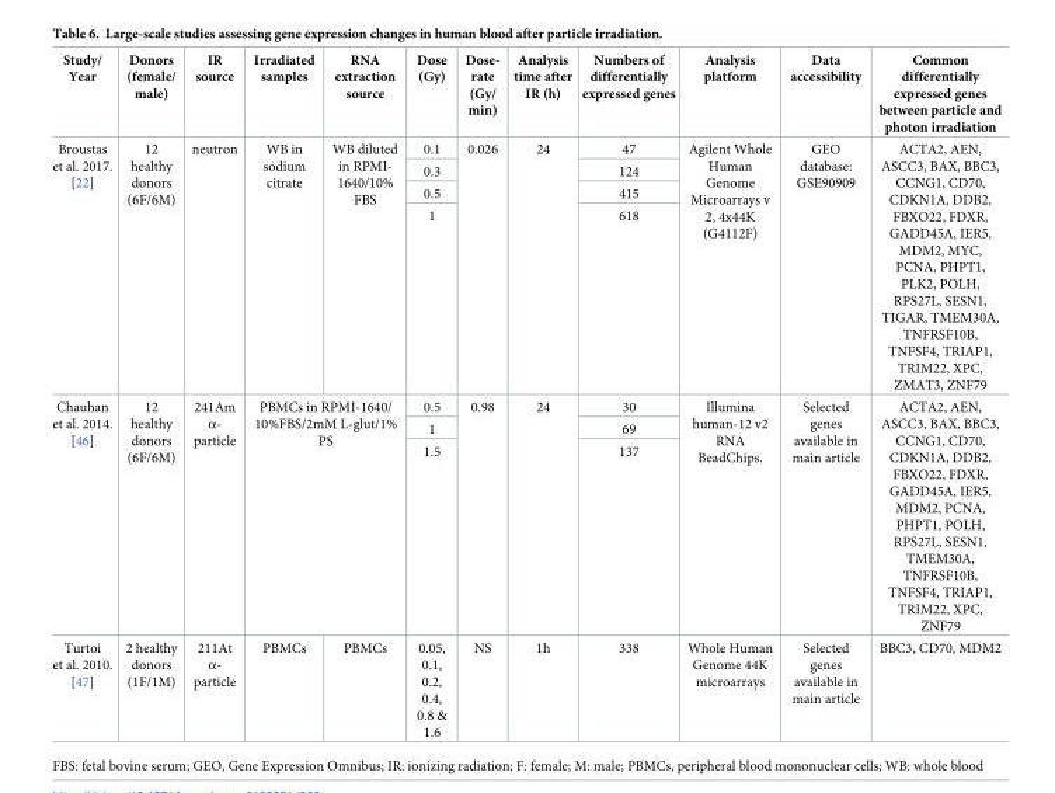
<table><thead><tr><td>Study/ Year</td><td>Donors (female/ male)</td><td>IR source</td><td>Irradiated samples</td><td>RNA extraction source</td><td>Dose (Gy)</td><td>Dose- rate (Gy/ min)</td><td>Analysis time after IR (h)</td><td>Numbers of differentially expressed genes</td><td>Analysis platform</td><td>Data accessibility</td><td>Common differentially expressed genes between particle and photon irradiation</td></tr></thead><tbody><tr><td rowspan="4">Broustas et al. 2017. [22]</td><td rowspan="4">12 healthy donors (6F/6M)</td><td rowspan="4">neutron</td><td rowspan="4">WB in sodium citrate</td><td rowspan="4">WB diluted in RPMI- 1640/10% FBS</td><td>0.1</td><td rowspan="4">0.026</td><td rowspan="4">24</td><td>47</td><td rowspan="4">Agilent Whole Human Genome Microarrays v 2, 4x44K (G4112F)</td><td rowspan="4">GEO database: GSE90909</td><td rowspan="4">ACTA2, AEN, ASCC3, BAX, BBC3, CCNG1, CD70, CDKN1A, DDB2, FBXO22, FDXR, GADD45A, IER5, MDM2, MYC, PCNA, PHPT1, PLK2, POLH, RPS27L, SESN1, TIGAR, TMEM30A, TNFRSF10B, TNFSF4, TRIAP1, TRIM22, XPC, ZMAT3, ZNF79</td></tr><tr><td>0.3</td><td>124</td></tr><tr><td>0.5</td><td>415</td></tr><tr><td>1</td><td>618</td></tr><tr><td rowspan="3">Chauhan et al. 2014. [46]</td><td rowspan="3">12 healthy donors (6F/6M)</td><td rowspan="3">241Am α- particle</td><td rowspan="3" colspan="2">PBMCs in RPMI-1640/ 10%FBS/2mM L-glut/1% PS</td><td>0.5</td><td rowspan="3">0.98</td><td rowspan="3">24</td><td>30</td><td rowspan="3">Illumina human-12 v2 RNA BeadChips.</td><td rowspan="3">Selected genes available in main article</td><td rowspan="3">ACTA2, AEN, ASCC3, BAX, BBC3, CCNG1, CD70, CDKN1A, DDB2, FBXO22, FDXR, GADD45A, IER5, MDM2, PCNA, PHPT1, POLH, RPS27L, SESN1, TMEM30A, TNFRSF10B, TNFSF4, TRIAP1, TRIM22, XPC, ZNF79</td></tr><tr><td>1</td><td>69</td></tr><tr><td>1.5</td><td>137</td></tr><tr><td>Turtoi et al. 2010. [47]</td><td>2 healthy donors (1F/1M)</td><td>211At α- particle</td><td>PBMCs</td><td>PBMCs</td><td>0.05, 0.1, 0.2, 0.4, 0.8 &amp; 1.6</td><td>NS</td><td>1h</td><td>338</td><td>Whole Human Genome 44K microarrays</td><td>Selected genes available in main article</td><td>BBC3, CD70, MDM2</td></tr></tbody></table>